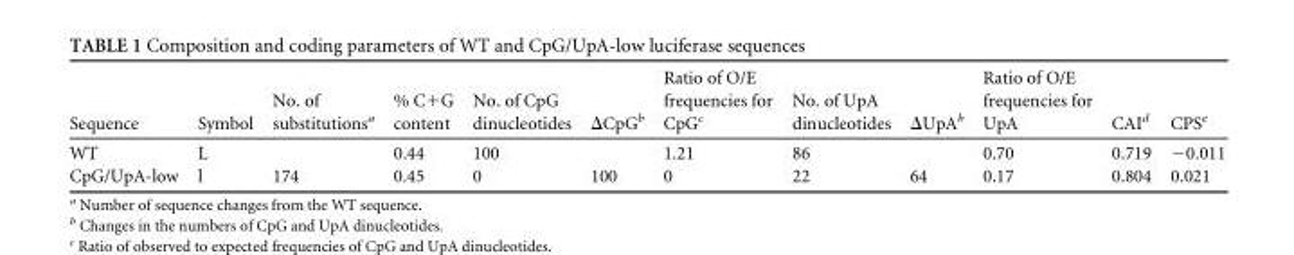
<table><thead><tr><td>Sequence</td><td>Symbol</td><td>No. of substitutions<sup>a</sup></td><td>% C+G content</td><td>No. of CpG dinucleotides</td><td>ΔCpG<sup>b</sup></td><td>Ratio of O/E frequencies for CpG<sup>c</sup></td><td>No. of UpA dinucleotides</td><td>ΔUpA<sup>b</sup></td><td>Ratio of O/E frequencies for UpA</td><td>CAI<sup>d</sup></td><td>CPS<sup>e</sup></td></tr></thead><tbody><tr><td>WT</td><td>L</td><td></td><td>0.44</td><td>100</td><td></td><td>1.21</td><td>86</td><td></td><td>0.70</td><td>0.719</td><td>−0.011</td></tr><tr><td>CpG/UpA-low</td><td>l</td><td>174</td><td>0.45</td><td>0</td><td>100</td><td>0</td><td>22</td><td>64</td><td>0.17</td><td>0.804</td><td>0.021</td></tr></tbody></table>